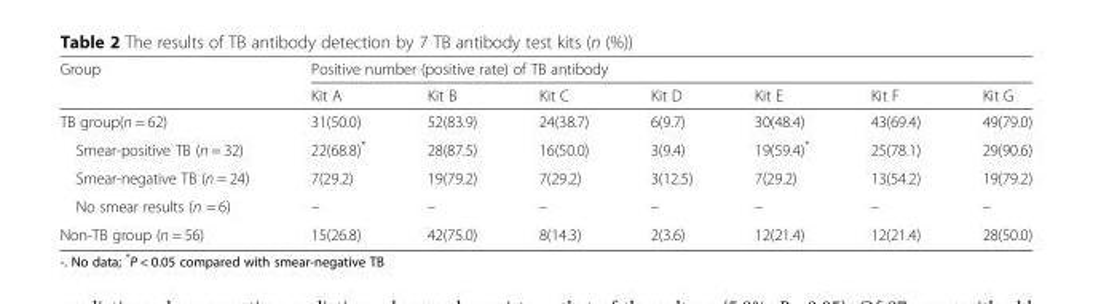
<table><thead><tr><td rowspan="2">Group</td><td colspan="7">Positive number (positive rate) of TB antibody</td></tr><tr><td>Kit A</td><td>Kit B</td><td>Kit C</td><td>Kit D</td><td>Kit E</td><td>Kit F</td><td>Kit G</td></tr></thead><tbody><tr><td>TB group(n = 62)</td><td>31(50.0)</td><td>52(83.9)</td><td>24(38.7)</td><td>6(9.7)</td><td>30(48.4)</td><td>43(69.4)</td><td>49(79.0)</td></tr><tr><td>Smear-positive TB (n = 32)</td><td>22(68.8)*</td><td>28(87.5)</td><td>16(50.0)</td><td>3(9.4)</td><td>19(59.4)*</td><td>25(78.1)</td><td>29(90.6)</td></tr><tr><td>Smear-negative TB (n = 24)</td><td>7(29.2)</td><td>19(79.2)</td><td>7(29.2)</td><td>3(12.5)</td><td>7(29.2)</td><td>13(54.2)</td><td>19(79.2)</td></tr><tr><td>No smear results (n = 6)</td><td>–</td><td>–</td><td>–</td><td>–</td><td>–</td><td>–</td><td>–</td></tr><tr><td>Non-TB group (n = 56)</td><td>15(26.8)</td><td>42(75.0)</td><td>8(14.3)</td><td>2(3.6)</td><td>12(21.4)</td><td>12(21.4)</td><td>28(50.0)</td></tr></tbody></table>